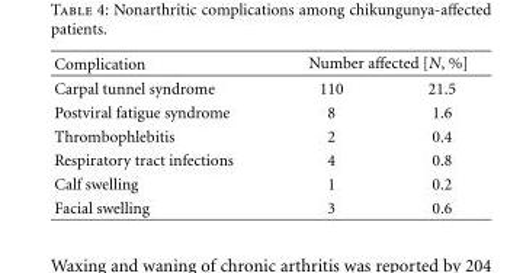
<table><thead><tr><td rowspan="2">Complication Carpal tunnel syndrome</td><td colspan="2">Number affected [N, %]</td></tr><tr><td>110</td><td>21.5</td></tr></thead><tbody><tr><td>Postviral fatigue syndrome</td><td>8</td><td>1.6</td></tr><tr><td>Thrombophlebitis</td><td>2</td><td>0.4</td></tr><tr><td>Respiratory tract infections</td><td>4</td><td>0.8</td></tr><tr><td>Calf swelling</td><td>1</td><td>0.2</td></tr><tr><td>Facial swelling</td><td>3</td><td>0.6</td></tr></tbody></table>